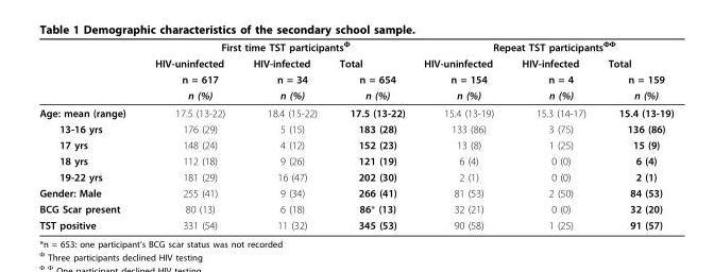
<table><thead><tr><td rowspan="4"></td><td colspan="3">First time TST participants<sup>Φ</sup></td><td colspan="3">Repeat TST participants<sup>ΦΦ</sup></td></tr><tr><td rowspan="3">HIV-uninfected n = 617 n (%)</td><td rowspan="3">HIV-infected n = 34 n (%)</td><td rowspan="3">Total n = 654 n (%)</td><td rowspan="3">HIV-uninfected n = 154 n (%)</td><td rowspan="3">HIV-infected n = 4 n (%)</td><td rowspan="3">Total n = 159 n (%)</td></tr><tr></tr><tr></tr></thead><tbody><tr><td>Age: mean (range)</td><td>17.5 (13-22)</td><td>18.4 (15-22)</td><td>17.5 (13-22)</td><td>15.4 (13-19)</td><td>15.3 (14-17)</td><td>15.4 (13-19)</td></tr><tr><td>13-16 yrs</td><td>176 (29)</td><td>5 (15)</td><td>183 (28)</td><td>133 (86)</td><td>3 (75)</td><td>136 (86)</td></tr><tr><td>17 yrs</td><td>148 (24)</td><td>4 (12)</td><td>152 (23)</td><td>13 (8)</td><td>1 (25)</td><td>15 (9)</td></tr><tr><td>18 yrs</td><td>112 (18)</td><td>9 (26)</td><td>121 (19)</td><td>6 (4)</td><td>0 (0)</td><td>6 (4)</td></tr><tr><td>19-22 yrs</td><td>181 (29)</td><td>16 (47)</td><td>202 (30)</td><td>2 (1)</td><td>0 (0)</td><td>2 (1)</td></tr><tr><td>Gender: Male</td><td>255 (41)</td><td>9 (34)</td><td>266 (41)</td><td>81 (53)</td><td>2 (50)</td><td>84 (53)</td></tr><tr><td>BCG Scar present</td><td>80 (13)</td><td>6 (18)</td><td>86* (13)</td><td>32 (21)</td><td>0 (0)</td><td>32 (20)</td></tr><tr><td>TST positive</td><td>331 (54)</td><td>11 (32)</td><td>345 (53)</td><td>90 (58)</td><td>1 (25)</td><td>91 (57)</td></tr></tbody></table>